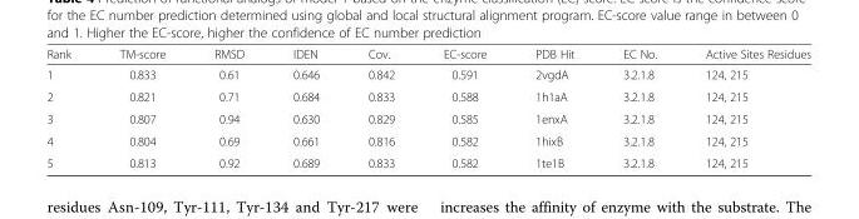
<table><thead><tr><td>Rank</td><td>TM-score</td><td>RMSD</td><td>IDEN</td><td>Cov.</td><td>EC-score</td><td>PDB Hit</td><td>EC No.</td><td>Active Sites Residues</td></tr></thead><tbody><tr><td>1</td><td>0.833</td><td>0.61</td><td>0.646</td><td>0.842</td><td>0.591</td><td>2vgdA</td><td>3.2.1.8</td><td>124, 215</td></tr><tr><td>2</td><td>0.821</td><td>0.71</td><td>0.684</td><td>0.833</td><td>0.588</td><td>1h1aA</td><td>3.2.1.8</td><td>124, 215</td></tr><tr><td>3</td><td>0.807</td><td>0.94</td><td>0.630</td><td>0.829</td><td>0.585</td><td>1enxA</td><td>3.2.1.8</td><td>124, 215</td></tr><tr><td>4</td><td>0.804</td><td>0.69</td><td>0.661</td><td>0.816</td><td>0.582</td><td>1hixB</td><td>3.2.1.8</td><td>124, 215</td></tr><tr><td>5</td><td>0.813</td><td>0.92</td><td>0.689</td><td>0.833</td><td>0.582</td><td>1te1B</td><td>3.2.1.8</td><td>124, 215</td></tr></tbody></table>